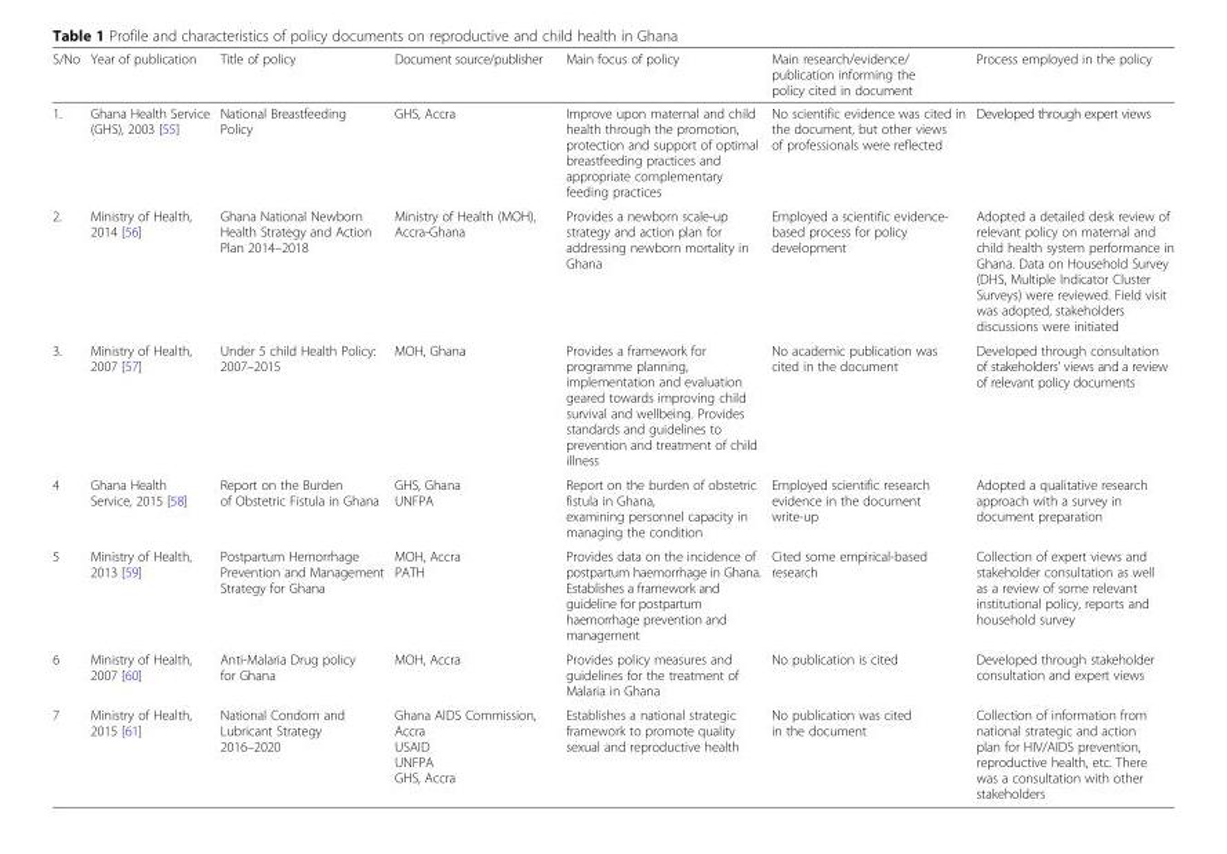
<table><thead><tr><td>S/No</td><td>Year of publication</td><td>Title of policy</td><td>Document source/publisher</td><td>Main focus of policy</td><td>Main research/evidence/ publication informing the policy cited in document</td><td>Process employed in the policy</td></tr></thead><tbody><tr><td>1.</td><td>Ghana Health Service (GHS), 2003 [55]</td><td>National Breastfeeding Policy</td><td>GHS, Accra</td><td>Improve upon maternal and child health through the promotion, protection and support of optimal breastfeeding practices and appropriate complementary feeding practices</td><td>No scientific evidence was cited in the document, but other views of professionals were reflected</td><td>Developed through expert views</td></tr><tr><td>2.</td><td>Ministry of Health, 2014 [56]</td><td>Ghana National Newborn Health Strategy and Action Plan 2014–2018</td><td>Ministry of Health (MOH), Accra-Ghana</td><td>Provides a newborn scale-up strategy and action plan for addressing newborn mortality in Ghana</td><td>Employed a scientific evidence- based process for policy development</td><td>Adopted a detailed desk review of relevant policy on maternal and child health system performance in Ghana. Data on Household Survey (DHS, Multiple Indicator Cluster Surveys) were reviewed. Field visit was adopted, stakeholders discussions were initiated</td></tr><tr><td>3.</td><td>Ministry of Health, 2007 [57]</td><td>Under 5 child Health Policy: 2007–2015</td><td>MOH, Ghana</td><td>Provides a framework for programme planning, implementation and evaluation geared towards improving child survival and wellbeing. Provides standards and guidelines to prevention and treatment of child illness</td><td>No academic publication was cited in the document</td><td>Developed through consultation of stakeholders’ views and a review of relevant policy documents</td></tr><tr><td>4</td><td>Ghana Health Service, 2015 [58]</td><td>Report on the Burden of Obstetric Fistula in Ghana</td><td>GHS, Ghana UNFPA</td><td>Report on the burden of obstetric fistula in Ghana, examining personnel capacity in managing the condition</td><td>Employed scientific research evidence in the document write-up</td><td>Adopted a qualitative research approach with a survey in document preparation</td></tr><tr><td>5</td><td>Ministry of Health, 2013 [59]</td><td>Postpartum Hemorrhage Prevention and Management Strategy for Ghana</td><td>MOH, Accra PATH</td><td>Provides data on the incidence of postpartum haemorrhage in Ghana. Establishes a framework and guideline for postpartum haemorrhage prevention and management</td><td>Cited some empirical-based research</td><td>Collection of expert views and stakeholder consultation as well as a review of some relevant institutional policy, reports and household survey</td></tr><tr><td>6</td><td>Ministry of Health, 2007 [60]</td><td>Anti-Malaria Drug policy for Ghana</td><td>MOH, Accra</td><td>Provides policy measures and guidelines for the treatment of Malaria in Ghana</td><td>No publication is cited</td><td>Developed through stakeholder consultation and expert views</td></tr><tr><td>7</td><td>Ministry of Health, 2015 [61]</td><td>National Condom and Lubricant Strategy 2016–2020</td><td>Ghana AIDS Commission, Accra USAID UNFPA GHS, Accra</td><td>Establishes a national strategic framework to promote quality sexual and reproductive health</td><td>No publication was cited in the document</td><td>Collection of information from national strategic and action plan for HIV/AIDS prevention, reproductive health, etc. There was a consultation with other stakeholders</td></tr></tbody></table>